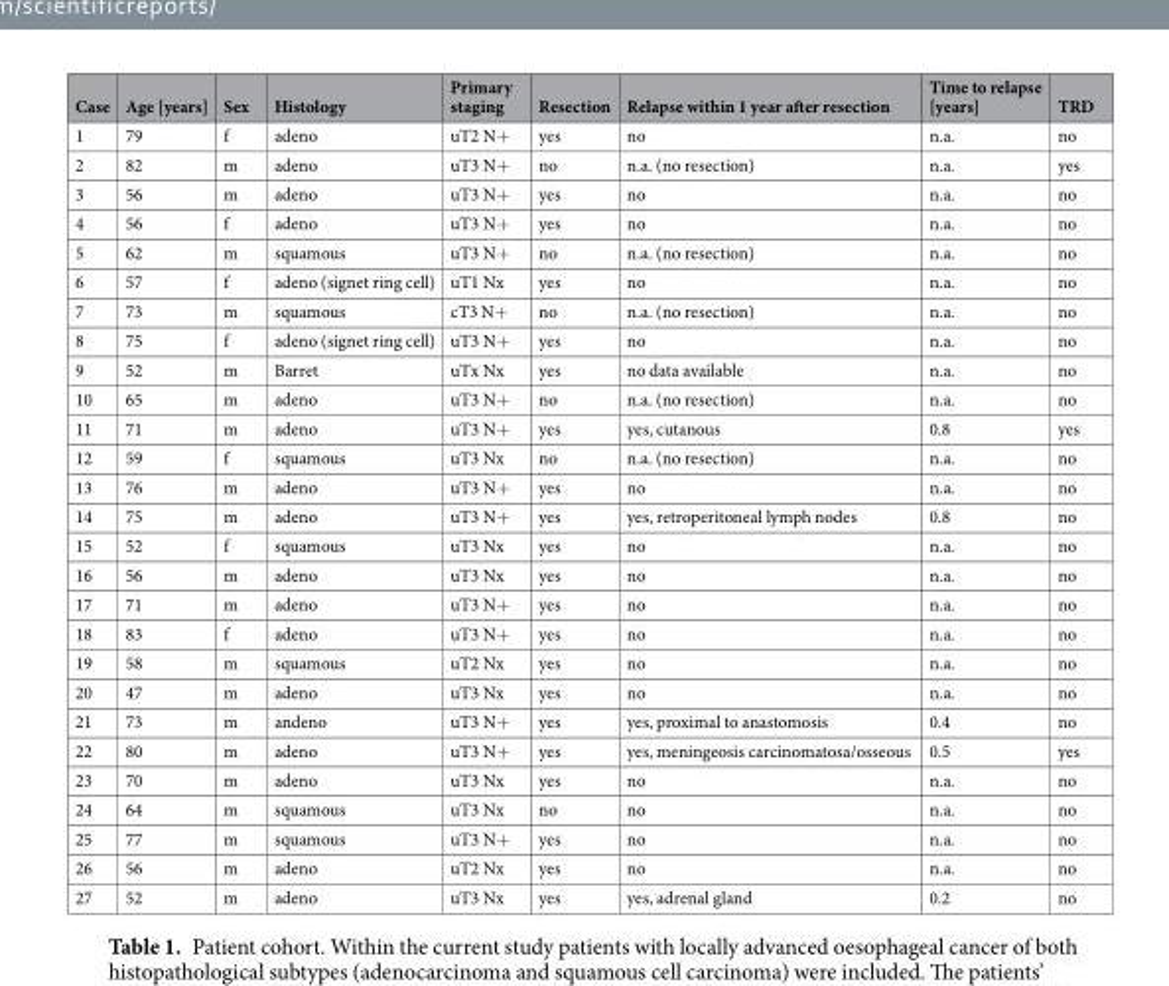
<table><thead><tr><td>Case</td><td>Age [years]</td><td>Sex</td><td>Histology</td><td>Primary staging</td><td>Resection</td><td>Relapse within 1 year after resection</td><td>Time to relapse [years]</td><td>TRD</td></tr></thead><tbody><tr><td>1</td><td>79</td><td>f</td><td>adeno</td><td>uT2 N+</td><td>yes</td><td>no</td><td>n.a.</td><td>no</td></tr><tr><td>2</td><td>82</td><td>m</td><td>adeno</td><td>uT3 N+</td><td>no</td><td>n.a. (no resection)</td><td>n.a.</td><td>yes</td></tr><tr><td>3</td><td>56</td><td>m</td><td>adeno</td><td>uT3 N+</td><td>yes</td><td>no</td><td>n.a.</td><td>no</td></tr><tr><td>4</td><td>56</td><td>f</td><td>adeno</td><td>uT3 N+</td><td>yes</td><td>no</td><td>n.a.</td><td>no</td></tr><tr><td>5</td><td>62</td><td>m</td><td>squamous</td><td>uT3 N+</td><td>no</td><td>n.a. (no resection)</td><td>n.a.</td><td>no</td></tr><tr><td>6</td><td>57</td><td>f</td><td>adeno (signet ring cell)</td><td>uT1 Nx</td><td>yes</td><td>no</td><td>n.a.</td><td>no</td></tr><tr><td>7</td><td>73</td><td>m</td><td>squamous</td><td>cT3 N+</td><td>no</td><td>n.a. (no resection)</td><td>n.a.</td><td>no</td></tr><tr><td>8</td><td>75</td><td>f</td><td>adeno (signet ring cell)</td><td>uT3 N+</td><td>yes</td><td>no</td><td>n.a.</td><td>no</td></tr><tr><td>9</td><td>52</td><td>m</td><td>Barret</td><td>uTx Nx</td><td>yes</td><td>no data available</td><td>n.a.</td><td>no</td></tr><tr><td>10</td><td>65</td><td>m</td><td>adeno</td><td>uT3 N+</td><td>no</td><td>n.a. (no resection)</td><td>n.a.</td><td>no</td></tr><tr><td>11</td><td>71</td><td>m</td><td>adeno</td><td>uT3 N+</td><td>yes</td><td>yes, cutanous</td><td>0.8</td><td>yes</td></tr><tr><td>12</td><td>59</td><td>f</td><td>squamous</td><td>uT3 Nx</td><td>no</td><td>n.a. (no resection)</td><td>n.a.</td><td>no</td></tr><tr><td>13</td><td>76</td><td>m</td><td>adeno</td><td>uT3 N+</td><td>yes</td><td>no</td><td>n.a.</td><td>no</td></tr><tr><td>14</td><td>75</td><td>m</td><td>adeno</td><td>uT3 N+</td><td>yes</td><td>yes, retroperitoneal lymph nodes</td><td>0.8</td><td>no</td></tr><tr><td>15</td><td>52</td><td>f</td><td>squamous</td><td>uT3 Nx</td><td>yes</td><td>no</td><td>n.a.</td><td>no</td></tr><tr><td>16</td><td>56</td><td>m</td><td>adeno</td><td>uT3 Nx</td><td>yes</td><td>no</td><td>n.a.</td><td>no</td></tr><tr><td>17</td><td>71</td><td>m</td><td>adeno</td><td>uT3 N+</td><td>yes</td><td>no</td><td>n.a.</td><td>no</td></tr><tr><td>18</td><td>83</td><td>f</td><td>adeno</td><td>uT3 N+</td><td>yes</td><td>no</td><td>n.a.</td><td>no</td></tr><tr><td>19</td><td>58</td><td>m</td><td>squamous</td><td>uT2 Nx</td><td>yes</td><td>no</td><td>n.a.</td><td>no</td></tr><tr><td>20</td><td>47</td><td>m</td><td>adeno</td><td>uT3 Nx</td><td>yes</td><td>no</td><td>n.a.</td><td>no</td></tr><tr><td>21</td><td>73</td><td>m</td><td>andeno</td><td>uT3 N+</td><td>yes</td><td>yes, proximal to anastomosis</td><td>0.4</td><td>no</td></tr><tr><td>22</td><td>80</td><td>m</td><td>adeno</td><td>uT3 N+</td><td>yes</td><td>yes, meningeosis carcinomatosa/osseous</td><td>0.5</td><td>yes</td></tr><tr><td>23</td><td>70</td><td>m</td><td>adeno</td><td>uT3 Nx</td><td>yes</td><td>no</td><td>n.a.</td><td>no</td></tr><tr><td>24</td><td>64</td><td>m</td><td>squamous</td><td>uT3 Nx</td><td>no</td><td>no</td><td>n.a.</td><td>no</td></tr><tr><td>25</td><td>77</td><td>m</td><td>squamous</td><td>uT3 N+</td><td>yes</td><td>no</td><td>n.a.</td><td>no</td></tr><tr><td>26</td><td>56</td><td>m</td><td>adeno</td><td>uT2 Nx</td><td>yes</td><td>no</td><td>n.a.</td><td>no</td></tr><tr><td>27</td><td>52</td><td>m</td><td>adeno</td><td>uT3 Nx</td><td>yes</td><td>yes, adrenal gland</td><td>0.2</td><td>no</td></tr></tbody></table>